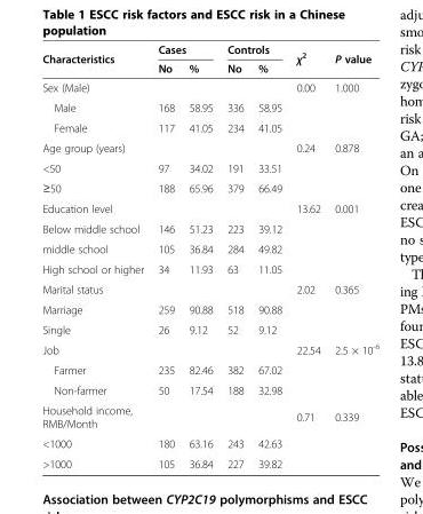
<table><thead><tr><td rowspan="2">Characteristics</td><td colspan="2">Cases</td><td colspan="2">Controls</td><td rowspan="2">χ<sup>2</sup></td><td rowspan="2">P value</td></tr><tr><td>No</td><td>%</td><td>No</td><td>%</td></tr></thead><tbody><tr><td>Sex (Male)</td><td></td><td></td><td></td><td></td><td>0.00</td><td>1.000</td></tr><tr><td>Male</td><td>168</td><td>58.95</td><td>336</td><td>58.95</td><td></td><td></td></tr><tr><td>Female</td><td>117</td><td>41.05</td><td>234</td><td>41.05</td><td></td><td></td></tr><tr><td>Age group (years)</td><td></td><td></td><td></td><td></td><td>0.24</td><td>0.878</td></tr><tr><td>&lt;50</td><td>97</td><td>34.02</td><td>191</td><td>33.51</td><td></td><td></td></tr><tr><td>≥50</td><td>188</td><td>65.96</td><td>379</td><td>66.49</td><td></td><td></td></tr><tr><td>Education level</td><td></td><td></td><td></td><td></td><td>13.62</td><td>0.001</td></tr><tr><td>Below middle school</td><td>146</td><td>51.23</td><td>223</td><td>39.12</td><td></td><td></td></tr><tr><td>middle school</td><td>105</td><td>36.84</td><td>284</td><td>49.82</td><td></td><td></td></tr><tr><td>High school or higher</td><td>34</td><td>11.93</td><td>63</td><td>11.05</td><td></td><td></td></tr><tr><td>Marital status</td><td></td><td></td><td></td><td></td><td>2.02</td><td>0.365</td></tr><tr><td>Marriage</td><td>259</td><td>90.88</td><td>518</td><td>90.88</td><td></td><td></td></tr><tr><td>Single</td><td>26</td><td>9.12</td><td>52</td><td>9.12</td><td></td><td></td></tr><tr><td>Job</td><td></td><td></td><td></td><td></td><td>22.54</td><td>2.5 × 10<sup>-6</sup></td></tr><tr><td>Farmer</td><td>235</td><td>82.46</td><td>382</td><td>67.02</td><td></td><td></td></tr><tr><td>Non-farmer</td><td>50</td><td>17.54</td><td>188</td><td>32.98</td><td></td><td></td></tr><tr><td>Household income, RMB/Month</td><td></td><td></td><td></td><td></td><td>0.71</td><td>0.339</td></tr><tr><td>&lt;1000</td><td>180</td><td>63.16</td><td>243</td><td>42.63</td><td></td><td></td></tr><tr><td>&gt;1000</td><td>105</td><td>36.84</td><td>227</td><td>39.82</td><td></td><td></td></tr></tbody></table>